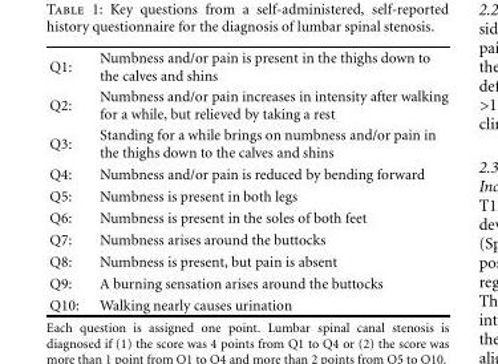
<table><tbody><tr><td>Q1:</td><td>Numbness and/or pain is present in the thighs down to the calves and shins</td></tr><tr><td>Q2:</td><td>Numbness and/or pain increases in intensity after walking for a while, but relieved by taking a rest</td></tr><tr><td>Q3:</td><td>Standing for a while brings on numbness and/or pain in the thighs down to the calves and shins</td></tr><tr><td>Q4:</td><td>Numbness and/or pain is reduced by bending forward</td></tr><tr><td>Q5:</td><td>Numbness is present in both legs</td></tr><tr><td>Q6:</td><td>Numbness is present in the soles of both feet</td></tr><tr><td>Q7:</td><td>Numbness arises around the buttocks</td></tr><tr><td>Q8:</td><td>Numbness is present, but pain is absent</td></tr><tr><td>Q9:</td><td>A burning sensation arises around the buttocks</td></tr><tr><td>Q10:</td><td>Walking nearly causes urination</td></tr></tbody></table>